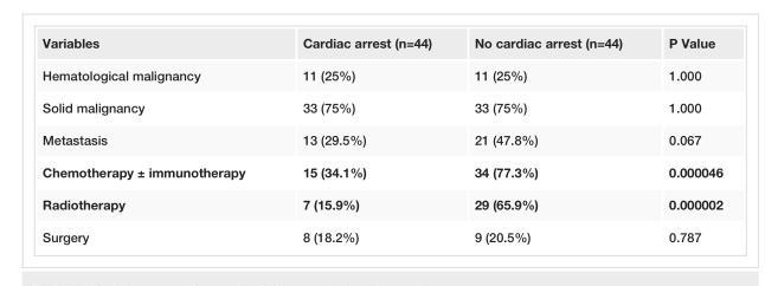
<table><tbody><tr><td>Variables</td><td>Cardiac arrest (n=44)</td><td>No cardiac arrest (n=44)</td><td>P Value</td></tr><tr><td>Hematological malignancy</td><td>11 (25%)</td><td>11 (25%)</td><td>1.000</td></tr><tr><td>Solid malignancy</td><td>33 (75%)</td><td>33 (75%)</td><td>1.000</td></tr><tr><td>Metastasis</td><td>13 (29.5%)</td><td>21 (47.8%)</td><td>0.067</td></tr><tr><td>Chemotherapy ± immunotherapy</td><td>15 (34.1%)</td><td>34 (77.3%)</td><td>0.000046</td></tr><tr><td>Radiotherapy</td><td>7 (15.9%)</td><td>29 (65.9%)</td><td>0.000002</td></tr><tr><td>Surgery</td><td>8 (18.2%)</td><td>9 (20.5%)</td><td>0.787</td></tr></tbody></table>